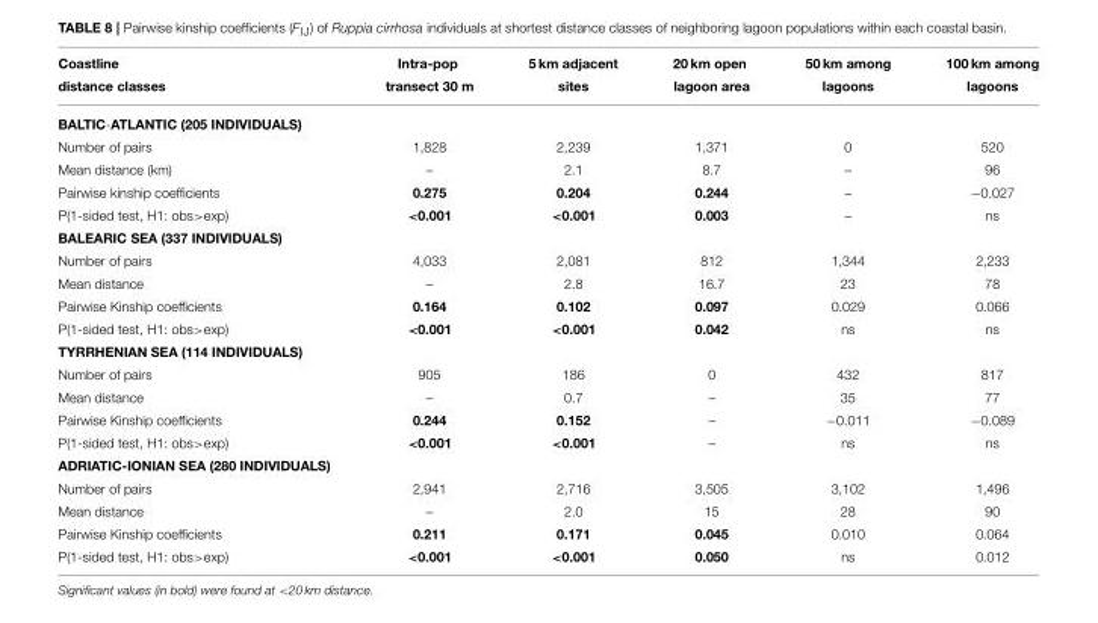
<table><thead><tr><td rowspan="2">Coastline distance classes</td><td rowspan="2">Intra-pop transect 30 m</td><td rowspan="2">5 km adjacent sites</td><td rowspan="2">20 km open lagoon area</td><td rowspan="2">50 km among lagoons</td><td rowspan="2">100 km among lagoons</td></tr><tr></tr></thead><tbody><tr><td colspan="6">BALTIC-ATLANTIC (205 INDIVIDUALS)</td></tr><tr><td>Number of pairs</td><td>1,828</td><td>2,239</td><td>1,371</td><td>0</td><td>520</td></tr><tr><td>Mean distance (km)</td><td>–</td><td>2.1</td><td>8.7</td><td>–</td><td>96</td></tr><tr><td>Pairwise kinship coefficients</td><td>0.275</td><td>0.204</td><td>0.244</td><td>–</td><td>−0.027</td></tr><tr><td>P(1-sided test, H1: obs&gt;exp)</td><td>&lt;0.001</td><td>&lt;0.001</td><td>0.003</td><td>–</td><td>ns</td></tr><tr><td colspan="6">BALEARIC SEA (337 INDIVIDUALS)</td></tr><tr><td>Number of pairs</td><td>4,033</td><td>2,081</td><td>812</td><td>1,344</td><td>2,233</td></tr><tr><td>Mean distance</td><td>–</td><td>2.8</td><td>16.7</td><td>23</td><td>78</td></tr><tr><td>Pairwise Kinship coefficients</td><td>0.164</td><td>0.102</td><td>0.097</td><td>0.029</td><td>0.066</td></tr><tr><td>P(1-sided test, H1: obs&gt;exp)</td><td>&lt;0.001</td><td>&lt;0.001</td><td>0.042</td><td>ns</td><td>ns</td></tr><tr><td colspan="6">TYRRHENIAN SEA (114 INDIVIDUALS)</td></tr><tr><td>Number of pairs</td><td>905</td><td>186</td><td>0</td><td>432</td><td>817</td></tr><tr><td>Mean distance</td><td>–</td><td>0.7</td><td>–</td><td>35</td><td>77</td></tr><tr><td>Pairwise Kinship coefficients</td><td>0.244</td><td>0.152</td><td>–</td><td>−0.011</td><td>−0.089</td></tr><tr><td>P(1-sided test, H1: obs&gt;exp)</td><td>&lt;0.001</td><td>&lt;0.001</td><td>–</td><td>ns</td><td>ns</td></tr><tr><td colspan="6">ADRIATIC-IONIAN SEA (280 INDIVIDUALS)</td></tr><tr><td>Number of pairs</td><td>2,941</td><td>2,716</td><td>3,505</td><td>3,102</td><td>1,496</td></tr><tr><td>Mean distance</td><td>–</td><td>2.0</td><td>15</td><td>28</td><td>90</td></tr><tr><td>Pairwise Kinship coefficients</td><td>0.211</td><td>0.171</td><td>0.045</td><td>0.010</td><td>0.064</td></tr><tr><td>P(1-sided test, H1: obs&gt;exp)</td><td>&lt;0.001</td><td>&lt;0.001</td><td>0.050</td><td>ns</td><td>0.012</td></tr></tbody></table>